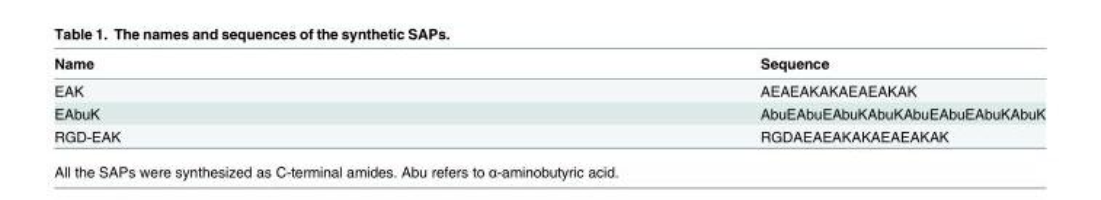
<table><thead><tr><td>Name</td><td>Sequence</td></tr></thead><tbody><tr><td>EAK</td><td>AEAEAKAKAEAEAKAK</td></tr><tr><td>EAbuK</td><td>AbuEAbuEAbuKAbuKAbuEAbuEAbuKAbuK</td></tr><tr><td>RGD-EAK</td><td>RGDAEAEAKAKAEAEAKAK</td></tr></tbody></table>